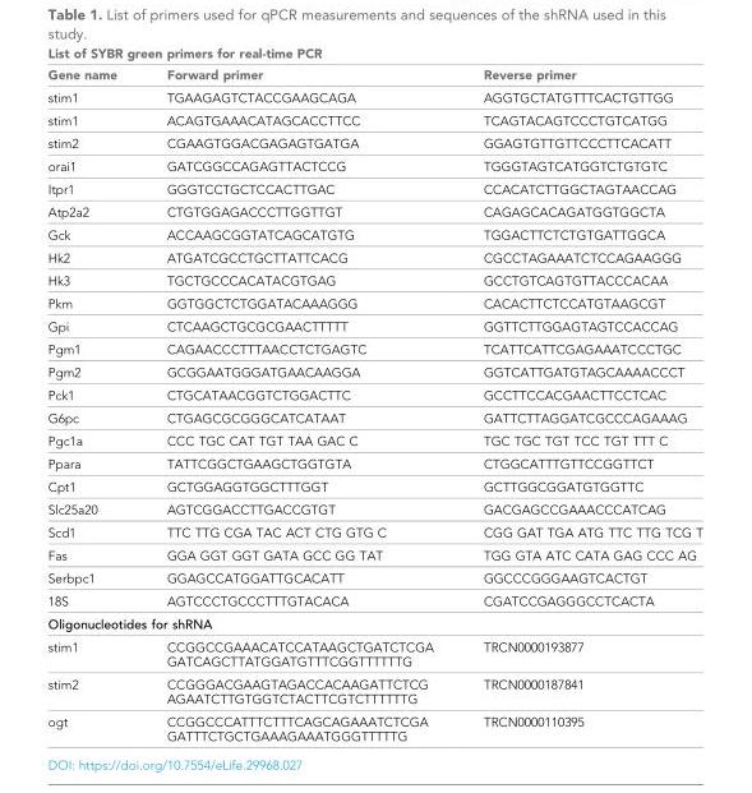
<table><thead><tr><td colspan="3">List of SYBR green primers for real-time PCR</td></tr><tr><td>Gene name</td><td>Forward primer</td><td>Reverse primer</td></tr></thead><tbody><tr><td>stim1</td><td>TGAAGAGTCTACCGAAGCAGA</td><td>AGGTGCTATGTTTCACTGTTGG</td></tr><tr><td>stim1</td><td>ACAGTGAAACATAGCACCTTCC</td><td>TCAGTACAGTCCCTGTCATGG</td></tr><tr><td>stim2</td><td>CGAAGTGGACGAGAGTGATGA</td><td>GGAGTGTTGTTCCCTTCACATT</td></tr><tr><td>orai1</td><td>GATCGGCCAGAGTTACTCCG</td><td>TGGGTAGTCATGGTCTGTGTC</td></tr><tr><td>Itpr1</td><td>GGGTCCTGCTCCACTTGAC</td><td>CCACATCTTGGCTAGTAACCAG</td></tr><tr><td>Atp2a2</td><td>CTGTGGAGACCCTTGGTTGT</td><td>CAGAGCACAGATGGTGGCTA</td></tr><tr><td>Gck</td><td>ACCAAGCGGTATCAGCATGTG</td><td>TGGACTTCTCTGTGATTGGCA</td></tr><tr><td>Hk2</td><td>ATGATCGCCTGCTTATTCACG</td><td>CGCCTAGAAATCTCCAGAAGGG</td></tr><tr><td>Hk3</td><td>TGCTGCCCACATACGTGAG</td><td>GCCTGTCAGTGTTACCCACAA</td></tr><tr><td>Pkm</td><td>GGTGGCTCTGGATACAAAGGG</td><td>CACACTTCTCCATGTAAGCGT</td></tr><tr><td>Gpi</td><td>CTCAAGCTGCGCGAACTTTTT</td><td>GGTTCTTGGAGTAGTCCACCAG</td></tr><tr><td>Pgm1</td><td>CAGAACCCTTTAACCTCTGAGTC</td><td>TCATTCATTCGAGAAATCCCTGC</td></tr><tr><td>Pgm2</td><td>GCGGAATGGGATGAACAAGGA</td><td>GGTCATTGATGTAGCAAAACCCT</td></tr><tr><td>Pck1</td><td>CTGCATAACGGTCTGGACTTC</td><td>GCCTTCCACGAACTTCCTCAC</td></tr><tr><td>G6pc</td><td>CTGAGCGCGGGCATCATAAT</td><td>GATTCTTAGGATCGCCCAGAAAG</td></tr><tr><td>Pgc1a</td><td>CCC TGC CAT TGT TAA GAC C</td><td>TGC TGC TGT TCC TGT TTT C</td></tr><tr><td>Ppara</td><td>TATTCGGCTGAAGCTGGTGTA</td><td>CTGGCATTTGTTCCGGTTCT</td></tr><tr><td>Cpt1</td><td>GCTGGAGGTGGCTTTGGT</td><td>GCTTGGCGGATGTGGTTC</td></tr><tr><td>Slc25a20</td><td>AGTCGGACCTTGACCGTGT</td><td>GACGAGCCGAAACCCATCAG</td></tr><tr><td>Scd1</td><td>TTC TTG CGA TAC ACT CTG GTG C</td><td>CGG GAT TGA ATG TTC TTG TCG T</td></tr><tr><td>Fas</td><td>GGA GGT GGT GATA GCC GG TAT</td><td>TGG GTA ATC CATA GAG CCC AG</td></tr><tr><td>Serbpc1</td><td>GGAGCCATGGATTGCACATT</td><td>GGCCCGGGAAGTCACTGT</td></tr><tr><td>18S</td><td>AGTCCCTGCCCTTTGTACACA</td><td>CGATCCGAGGGCCTCACTA</td></tr><tr><td colspan="3">Oligonucleotides for shRNA</td></tr><tr><td>stim1</td><td>CCGGCCGAAACATCCATAAGCTGATCTCGA GATCAGCTTATGGATGTTTCGGTTTTTTG</td><td>TRCN0000193877</td></tr><tr><td>stim2</td><td>CCGGGACGAAGTAGACCACAAGATTCTCG AGAATCTTGTGGTCTACTTCGTCTTTTTTG</td><td>TRCN0000187841</td></tr><tr><td>ogt</td><td>CCGGCCCATTTCTTTCAGCAGAAATCTCGA GATTTCTGCTGAAAGAAATGGGTTTTTG</td><td>TRCN0000110395</td></tr></tbody></table>